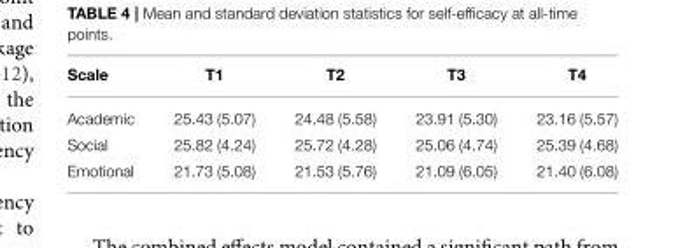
<table><thead><tr><td>Scale</td><td>T1</td><td>T2</td><td>T3</td><td>T4</td></tr></thead><tbody><tr><td>Academic</td><td>25.43 (5.07)</td><td>24.48 (5.58)</td><td>23.91 (5.30)</td><td>23.16 (5.57)</td></tr><tr><td>Social</td><td>25.82 (4.24)</td><td>25.72 (4.28)</td><td>25.06 (4.74)</td><td>25.39 (4.68)</td></tr><tr><td>Emotional</td><td>21.73 (5.08)</td><td>21.53 (5.76)</td><td>21.09 (6.05)</td><td>21.40 (6.08)</td></tr></tbody></table>